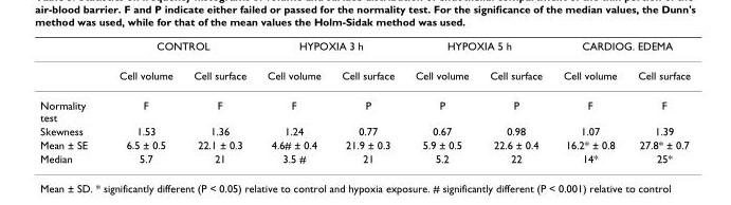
<table><thead><tr><td rowspan="2"></td><td colspan="2">CONTROL</td><td colspan="2">HYPOXIA 3 h</td><td colspan="2">HYPOXIA 5 h</td><td colspan="2">CARDIOG. EDEMA</td></tr><tr><td>Cell volume</td><td>Cell surface</td><td>Cell volume</td><td>Cell surface</td><td>Cell volume</td><td>Cell surface</td><td>Cell volume</td><td>Cell surface</td></tr></thead><tbody><tr><td>Normality test</td><td>F</td><td>F</td><td>F</td><td>P</td><td>P</td><td>P</td><td>F</td><td>F</td></tr><tr><td>Skewness</td><td>1.53</td><td>1.36</td><td>1.24</td><td>0.77</td><td>0.67</td><td>0.98</td><td>1.07</td><td>1.39</td></tr><tr><td>Mean ± SE</td><td>6.5 ± 0.5</td><td>22.1 ± 0.3</td><td>4.6# ± 0.4</td><td>21.9 ± 0.3</td><td>5.9 ± 0.5</td><td>22.6 ± 0.4</td><td>16.2* ± 0.8</td><td>27.8* ± 0.7</td></tr><tr><td>Median</td><td>5.7</td><td>21</td><td>3.5 #</td><td>21</td><td>5.2</td><td>22</td><td>14*</td><td>25*</td></tr></tbody></table>